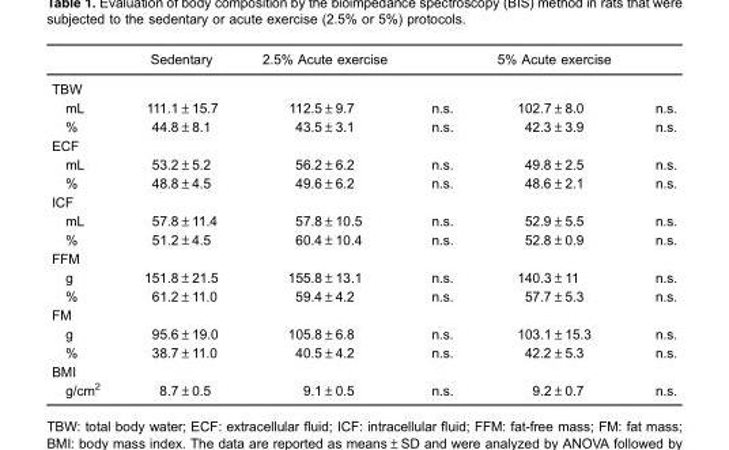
<table><thead><tr><td></td><td>Sedentary</td><td>2.5% Acute exercise</td><td></td><td>5% Acute exercise</td><td></td></tr></thead><tbody><tr><td colspan="6">TBW</td></tr><tr><td>mL</td><td>111.1±15.7</td><td>112.5±9.7</td><td>n.s.</td><td>102.7±8.0</td><td>n.s.</td></tr><tr><td>%</td><td>44.8±8.1</td><td>43.5±3.1</td><td>n.s.</td><td>42.3±3.9</td><td>n.s.</td></tr><tr><td colspan="6">ECF</td></tr><tr><td>mL</td><td>53.2±5.2</td><td>56.2±6.2</td><td>n.s.</td><td>49.8±2.5</td><td>n.s.</td></tr><tr><td>%</td><td>48.8±4.5</td><td>49.6±6.2</td><td>n.s.</td><td>48.6±2.1</td><td>n.s.</td></tr><tr><td colspan="6">ICF</td></tr><tr><td>mL</td><td>57.8±11.4</td><td>57.8±10.5</td><td>n.s.</td><td>52.9±5.5</td><td>n.s.</td></tr><tr><td>%</td><td>51.2±4.5</td><td>60.4±10.4</td><td>n.s.</td><td>52.8±0.9</td><td>n.s.</td></tr><tr><td colspan="6">FFM</td></tr><tr><td>g</td><td>151.8±21.5</td><td>155.8±13.1</td><td>n.s.</td><td>140.3±11</td><td>n.s.</td></tr><tr><td>%</td><td>61.2±11.0</td><td>59.4±4.2</td><td>n.s.</td><td>57.7±5.3</td><td>n.s.</td></tr><tr><td colspan="6">FM</td></tr><tr><td>g</td><td>95.6±19.0</td><td>105.8±6.8</td><td>n.s.</td><td>103.1±15.3</td><td>n.s.</td></tr><tr><td>%</td><td>38.7±11.0</td><td>40.5±4.2</td><td>n.s.</td><td>42.2±5.3</td><td>n.s.</td></tr><tr><td colspan="6">BMI</td></tr><tr><td>g/cm2</td><td>8.7±0.5</td><td>9.1±0.5</td><td>n.s.</td><td>9.2±0.7</td><td>n.s.</td></tr></tbody></table>